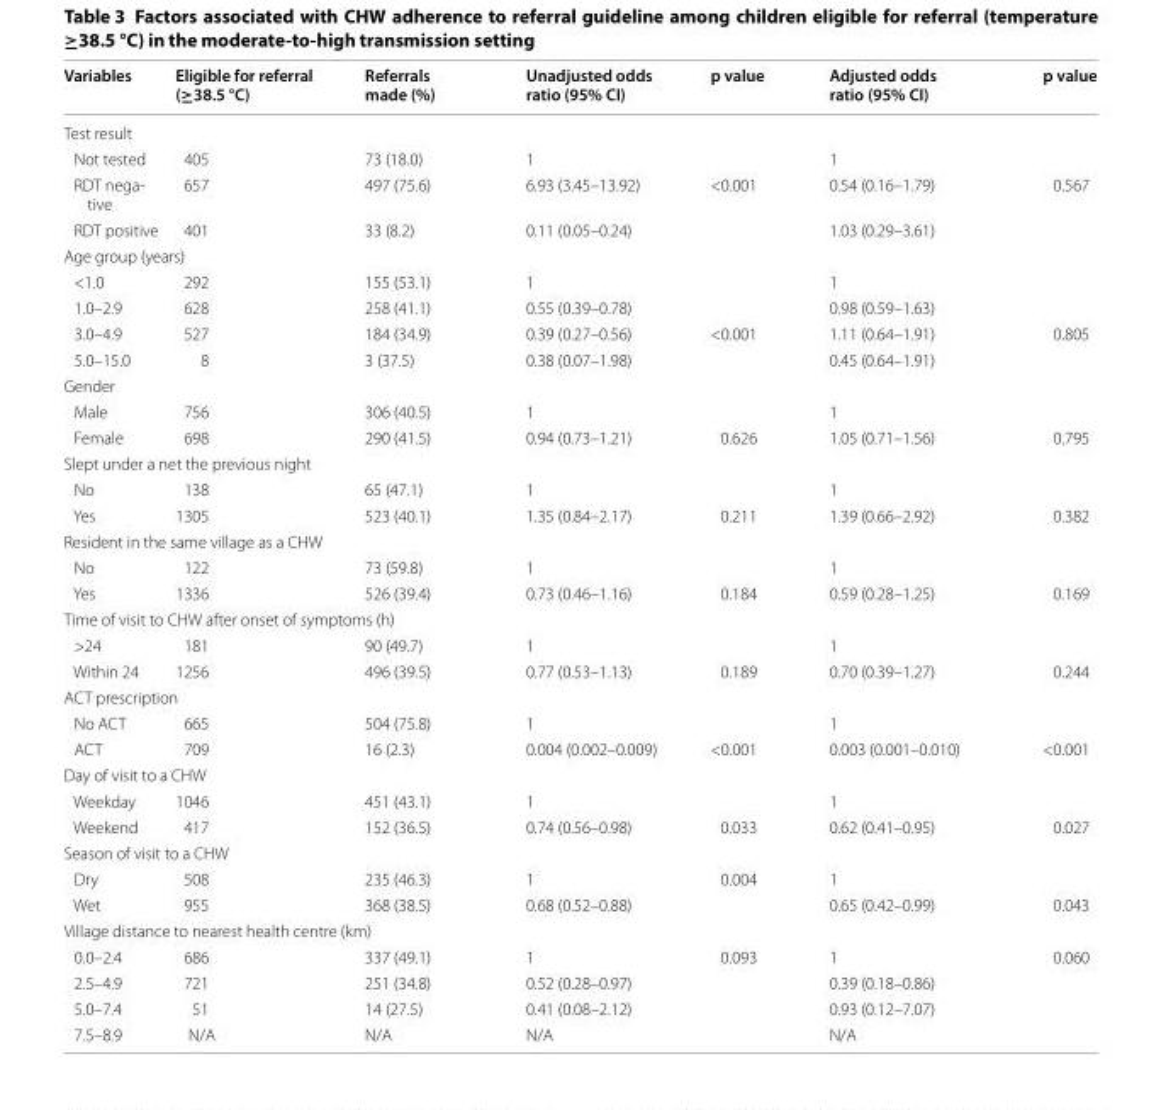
<table><thead><tr><td>Variables</td><td>Eligible for referral (≥38.5 °C)</td><td>Referrals made (%)</td><td>Unadjusted odds ratio (95% CI)</td><td>p value</td><td>Adjusted odds ratio (95% CI)</td><td>p value</td></tr></thead><tbody><tr><td colspan="7">Test result</td></tr><tr><td>Not tested</td><td>405</td><td>73 (18.0)</td><td>1</td><td></td><td>1</td><td></td></tr><tr><td>RDT nega- tive</td><td>657</td><td>497 (75.6)</td><td>6.93 (3.45–13.92)</td><td>&lt;0.001</td><td>0.54 (0.16–1.79)</td><td>0.567</td></tr><tr><td>RDT positive</td><td>401</td><td>33 (8.2)</td><td>0.11 (0.05–0.24)</td><td></td><td>1.03 (0.29–3.61)</td><td></td></tr><tr><td colspan="7">Age group (years)</td></tr><tr><td>&lt;1.0</td><td>292</td><td>155 (53.1)</td><td>1</td><td></td><td>1</td><td></td></tr><tr><td>1.0–2.9</td><td>628</td><td>258 (41.1)</td><td>0.55 (0.39–0.78)</td><td></td><td>0.98 (0.59–1.63)</td><td></td></tr><tr><td>3.0–4.9</td><td>527</td><td>184 (34.9)</td><td>0.39 (0.27–0.56)</td><td>&lt;0.001</td><td>1.11 (0.64–1.91)</td><td>0.805</td></tr><tr><td>5.0–15.0</td><td>8</td><td>3 (37.5)</td><td>0.38 (0.07–1.98)</td><td></td><td>0.45 (0.64–1.91)</td><td></td></tr><tr><td colspan="7">Gender</td></tr><tr><td>Male</td><td>756</td><td>306 (40.5)</td><td>1</td><td></td><td>1</td><td></td></tr><tr><td>Female</td><td>698</td><td>290 (41.5)</td><td>0.94 (0.73–1.21)</td><td>0.626</td><td>1.05 (0.71–1.56)</td><td>0.795</td></tr><tr><td colspan="7">Slept under a net the previous night</td></tr><tr><td>No</td><td>138</td><td>65 (47.1)</td><td>1</td><td></td><td>1</td><td></td></tr><tr><td>Yes</td><td>1305</td><td>523 (40.1)</td><td>1.35 (0.84–2.17)</td><td>0.211</td><td>1.39 (0.66–2.92)</td><td>0.382</td></tr><tr><td colspan="7">Resident in the same village as a CHW</td></tr><tr><td>No</td><td>122</td><td>73 (59.8)</td><td>1</td><td></td><td>1</td><td></td></tr><tr><td>Yes</td><td>1336</td><td>526 (39.4)</td><td>0.73 (0.46–1.16)</td><td>0.184</td><td>0.59 (0.28–1.25)</td><td>0.169</td></tr><tr><td colspan="7">Time of visit to CHW after onset of symptoms (h)</td></tr><tr><td>&gt;24</td><td>181</td><td>90 (49.7)</td><td>1</td><td></td><td>1</td><td></td></tr><tr><td>Within 24</td><td>1256</td><td>496 (39.5)</td><td>0.77 (0.53–1.13)</td><td>0.189</td><td>0.70 (0.39–1.27)</td><td>0.244</td></tr><tr><td colspan="7">ACT prescription</td></tr><tr><td>No ACT</td><td>665</td><td>504 (75.8)</td><td>1</td><td></td><td>1</td><td></td></tr><tr><td>ACT</td><td>709</td><td>16 (2.3)</td><td>0.004 (0.002–0.009)</td><td>&lt;0.001</td><td>0.003 (0.001–0.010)</td><td>&lt;0.001</td></tr><tr><td colspan="7">Day of visit to a CHW</td></tr><tr><td>Weekday</td><td>1046</td><td>451 (43.1)</td><td>1</td><td></td><td>1</td><td></td></tr><tr><td>Weekend</td><td>417</td><td>152 (36.5)</td><td>0.74 (0.56–0.98)</td><td>0.033</td><td>0.62 (0.41–0.95)</td><td>0.027</td></tr><tr><td colspan="7">Season of visit to a CHW</td></tr><tr><td>Dry</td><td>508</td><td>235 (46.3)</td><td>1</td><td>0.004</td><td>1</td><td></td></tr><tr><td>Wet</td><td>955</td><td>368 (38.5)</td><td>0.68 (0.52–0.88)</td><td></td><td>0.65 (0.42–0.99)</td><td>0.043</td></tr><tr><td colspan="7">Village distance to nearest health centre (km)</td></tr><tr><td>0.0–2.4</td><td>686</td><td>337 (49.1)</td><td>1</td><td rowspan="3">0.093</td><td>1</td><td rowspan="3">0.060</td></tr><tr><td>2.5–4.9</td><td>721</td><td>251 (34.8)</td><td>0.52 (0.28–0.97)</td><td>0.39 (0.18–0.86)</td></tr><tr><td>5.0–7.4</td><td>51</td><td>14 (27.5)</td><td>0.41 (0.08–2.12)</td><td>0.93 (0.12–7.07)</td></tr><tr><td>7.5–8.9</td><td>N/A</td><td>N/A</td><td>N/A</td><td></td><td>N/A</td><td></td></tr></tbody></table>